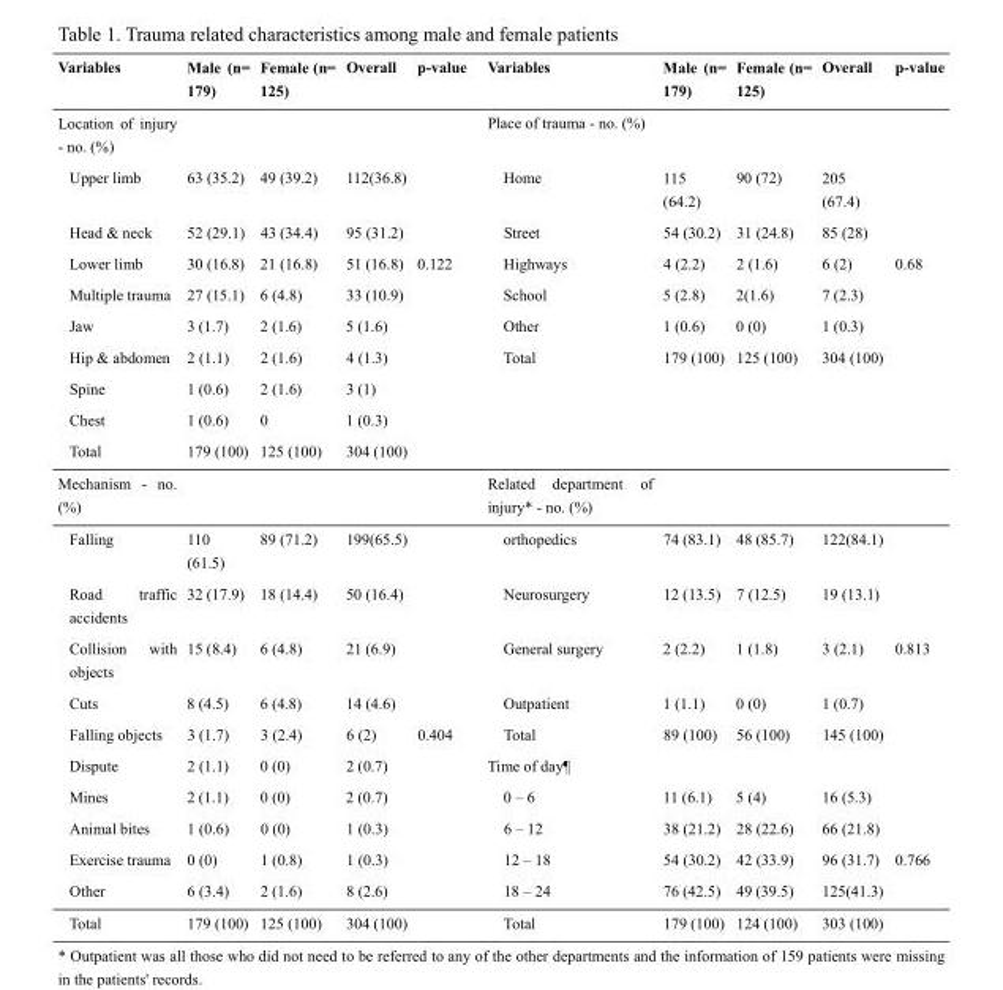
<table><thead><tr><td>Variables</td><td>Male (n= 179)</td><td>Female (n= 125)</td><td>Overall</td><td>p-value</td><td>Variables</td><td>Male (n= 179)</td><td>Female (n= 125)</td><td>Overall</td><td>p-value</td></tr></thead><tbody><tr><td>Location of injury - no. (%)</td><td></td><td></td><td></td><td></td><td>Place of trauma - no. (%)</td><td></td><td></td><td></td><td></td></tr><tr><td>Upper limb</td><td>63 (35.2)</td><td>49 (39.2)</td><td>112(36.8)</td><td></td><td>Home</td><td>115 (64.2)</td><td>90 (72)</td><td>205 (67.4)</td><td></td></tr><tr><td>Head &amp; neck</td><td>52 (29.1)</td><td>43 (34.4)</td><td>95 (31.2)</td><td></td><td>Street</td><td>54 (30.2)</td><td>31 (24.8)</td><td>85 (28)</td><td></td></tr><tr><td>Lower limb</td><td>30 (16.8)</td><td>21 (16.8)</td><td>51 (16.8)</td><td>0.122</td><td>Highways</td><td>4 (2.2)</td><td>2 (1.6)</td><td>6 (2)</td><td>0.68</td></tr><tr><td>Multiple trauma</td><td>27 (15.1)</td><td>6 (4.8)</td><td>33 (10.9)</td><td></td><td>School</td><td>5 (2.8)</td><td>2(1.6)</td><td>7 (2.3)</td><td></td></tr><tr><td>Jaw</td><td>3 (1.7)</td><td>2 (1.6)</td><td>5 (1.6)</td><td></td><td>Other</td><td>1 (0.6)</td><td>0 (0)</td><td>1 (0.3)</td><td></td></tr><tr><td>Hip &amp; abdomen</td><td>2 (1.1)</td><td>2 (1.6)</td><td>4 (1.3)</td><td></td><td>Total</td><td>179 (100)</td><td>125 (100)</td><td>304 (100)</td><td></td></tr><tr><td>Spine</td><td>1 (0.6)</td><td>2 (1.6)</td><td>3 (1)</td><td></td><td></td><td></td><td></td><td></td><td></td></tr><tr><td>Chest</td><td>1 (0.6)</td><td>0</td><td>1 (0.3)</td><td></td><td></td><td></td><td></td><td></td><td></td></tr><tr><td>Total</td><td>179 (100)</td><td>125 (100)</td><td>304 (100)</td><td></td><td></td><td></td><td></td><td></td><td></td></tr><tr><td>Mechanism - no. (%)</td><td></td><td></td><td></td><td></td><td>Related department of injury* - no. (%)</td><td></td><td></td><td></td><td></td></tr><tr><td>Falling</td><td>110 (61.5)</td><td>89 (71.2)</td><td>199(65.5)</td><td></td><td>orthopedics</td><td>74 (83.1)</td><td>48 (85.7)</td><td>122(84.1)</td><td></td></tr><tr><td>Road traffic accidents</td><td>32 (17.9)</td><td>18 (14.4)</td><td>50 (16.4)</td><td></td><td>Neurosurgery</td><td>12 (13.5)</td><td>7 (12.5)</td><td>19 (13.1)</td><td></td></tr><tr><td>Collision with objects</td><td>15 (8.4)</td><td>6 (4.8)</td><td>21 (6.9)</td><td></td><td>General surgery</td><td>2 (2.2)</td><td>1 (1.8)</td><td>3 (2.1)</td><td>0.813</td></tr><tr><td>Cuts</td><td>8 (4.5)</td><td>6 (4.8)</td><td>14 (4.6)</td><td></td><td>Outpatient</td><td>1 (1.1)</td><td>0 (0)</td><td>1 (0.7)</td><td></td></tr><tr><td>Falling objects</td><td>3 (1.7)</td><td>3 (2.4)</td><td>6 (2)</td><td>0.404</td><td>Total</td><td>89 (100)</td><td>56 (100)</td><td>145 (100)</td><td></td></tr><tr><td>Dispute</td><td>2 (1.1)</td><td>0 (0)</td><td>2 (0.7)</td><td></td><td>Time of day¶</td><td></td><td></td><td></td><td></td></tr><tr><td>Mines</td><td>2 (1.1)</td><td>0 (0)</td><td>2 (0.7)</td><td></td><td>0 – 6</td><td>11 (6.1)</td><td>5 (4)</td><td>16 (5.3)</td><td></td></tr><tr><td>Animal bites</td><td>1 (0.6)</td><td>0 (0)</td><td>1 (0.3)</td><td></td><td>6 – 12</td><td>38 (21.2)</td><td>28 (22.6)</td><td>66 (21.8)</td><td></td></tr><tr><td>Exercise trauma</td><td>0 (0)</td><td>1 (0.8)</td><td>1 (0.3)</td><td></td><td>12 – 18</td><td>54 (30.2)</td><td>42 (33.9)</td><td>96 (31.7)</td><td>0.766</td></tr><tr><td>Other</td><td>6 (3.4)</td><td>2 (1.6)</td><td>8 (2.6)</td><td></td><td>18 – 24</td><td>76 (42.5)</td><td>49 (39.5)</td><td>125(41.3)</td><td></td></tr><tr><td>Total</td><td>179 (100)</td><td>125 (100)</td><td>304 (100)</td><td></td><td>Total</td><td>179 (100)</td><td>124 (100)</td><td>303 (100)</td><td></td></tr></tbody></table>